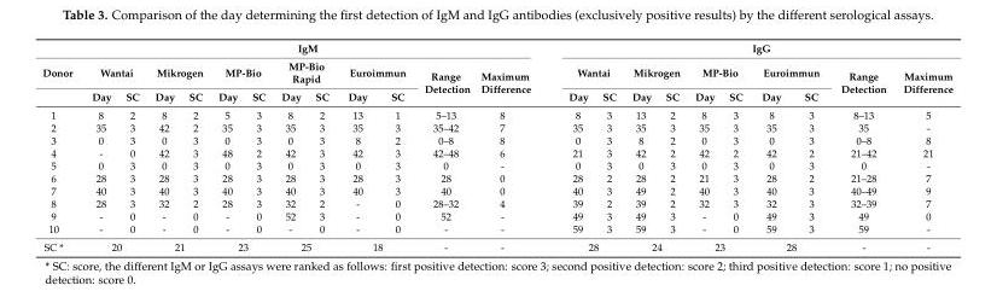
<table><thead><tr><td rowspan="3">Donor</td><td colspan="12">IgM</td><td colspan="10">IgG</td></tr><tr><td colspan="2">Wantai</td><td colspan="2">Mikrogen</td><td colspan="2">MP-Bio</td><td colspan="2">MP-Bio Rapid</td><td colspan="2">Euroimmun</td><td rowspan="2">Range Detection</td><td rowspan="2">Maximum Difference</td><td colspan="2">Wantai</td><td colspan="2">Mikrogen</td><td colspan="2">MP-Bio</td><td colspan="2">Euroimmun</td><td rowspan="2">Range Detection</td><td rowspan="2">Maximum Difference</td></tr><tr><td>Day</td><td>SC</td><td>Day</td><td>SC</td><td>Day</td><td>SC</td><td>Day</td><td>SC</td><td>Day</td><td>SC</td><td>Day</td><td>SC</td><td>Day</td><td>SC</td><td>Day</td><td>SC</td><td>Day</td><td>SC</td></tr></thead><tbody><tr><td>1</td><td>8</td><td>2</td><td>8</td><td>2</td><td>5</td><td>3</td><td>8</td><td>2</td><td>13</td><td>1</td><td>5–13</td><td>8</td><td>8</td><td>3</td><td>13</td><td>2</td><td>8</td><td>3</td><td>8</td><td>3</td><td>8–13</td><td>5</td></tr><tr><td>2</td><td>35</td><td>3</td><td>42</td><td>2</td><td>35</td><td>3</td><td>35</td><td>3</td><td>35</td><td>3</td><td>35–42</td><td>7</td><td>35</td><td>3</td><td>35</td><td>3</td><td>35</td><td>3</td><td>35</td><td>3</td><td>35</td><td>-</td></tr><tr><td>3</td><td>0</td><td>3</td><td>0</td><td>3</td><td>0</td><td>3</td><td>0</td><td>3</td><td>8</td><td>2</td><td>0–8</td><td>8</td><td>0</td><td>3</td><td>8</td><td>2</td><td>0</td><td>3</td><td>0</td><td>3</td><td>0–8</td><td>8</td></tr><tr><td>4</td><td>-</td><td>0</td><td>42</td><td>3</td><td>48</td><td>2</td><td>42</td><td>3</td><td>42</td><td>3</td><td>42–48</td><td>6</td><td>21</td><td>3</td><td>42</td><td>2</td><td>42</td><td>2</td><td>42</td><td>2</td><td>21–42</td><td>21</td></tr><tr><td>5</td><td>0</td><td>3</td><td>0</td><td>3</td><td>0</td><td>3</td><td>0</td><td>3</td><td>0</td><td>3</td><td>0</td><td>-</td><td>0</td><td>3</td><td>0</td><td>3</td><td>0</td><td>3</td><td>0</td><td>3</td><td>0</td><td>-</td></tr><tr><td>6</td><td>28</td><td>3</td><td>28</td><td>3</td><td>28</td><td>3</td><td>28</td><td>3</td><td>28</td><td>3</td><td>28</td><td>0</td><td>28</td><td>2</td><td>28</td><td>2</td><td>21</td><td>3</td><td>28</td><td>2</td><td>21–28</td><td>7</td></tr><tr><td>7</td><td>40</td><td>3</td><td>40</td><td>3</td><td>40</td><td>3</td><td>40</td><td>3</td><td>40</td><td>3</td><td>40</td><td>0</td><td>40</td><td>3</td><td>49</td><td>2</td><td>40</td><td>3</td><td>40</td><td>3</td><td>40–49</td><td>9</td></tr><tr><td>8</td><td>28</td><td>3</td><td>32</td><td>2</td><td>28</td><td>3</td><td>32</td><td>2</td><td>-</td><td>0</td><td>28–32</td><td>4</td><td>39</td><td>2</td><td>39</td><td>2</td><td>32</td><td>3</td><td>32</td><td>3</td><td>32–39</td><td>7</td></tr><tr><td>9</td><td>-</td><td>0</td><td>-</td><td>0</td><td>-</td><td>0</td><td>52</td><td>3</td><td>-</td><td>0</td><td>52</td><td>-</td><td>49</td><td>3</td><td>49</td><td>3</td><td>-</td><td>0</td><td>49</td><td>3</td><td>49</td><td>0</td></tr><tr><td>10</td><td>-</td><td>0</td><td>-</td><td>0</td><td>-</td><td>0</td><td>-</td><td>0</td><td>-</td><td>0</td><td>-</td><td>-</td><td>59</td><td>3</td><td>59</td><td>3</td><td>-</td><td>0</td><td>59</td><td>3</td><td>59</td><td>-</td></tr><tr><td>SC *</td><td colspan="2">20</td><td colspan="2">21</td><td colspan="2">23</td><td colspan="2">25</td><td colspan="2">18</td><td>-</td><td>-</td><td colspan="2">28</td><td colspan="2">24</td><td colspan="2">23</td><td colspan="2">28</td><td>-</td><td>-</td></tr></tbody></table>